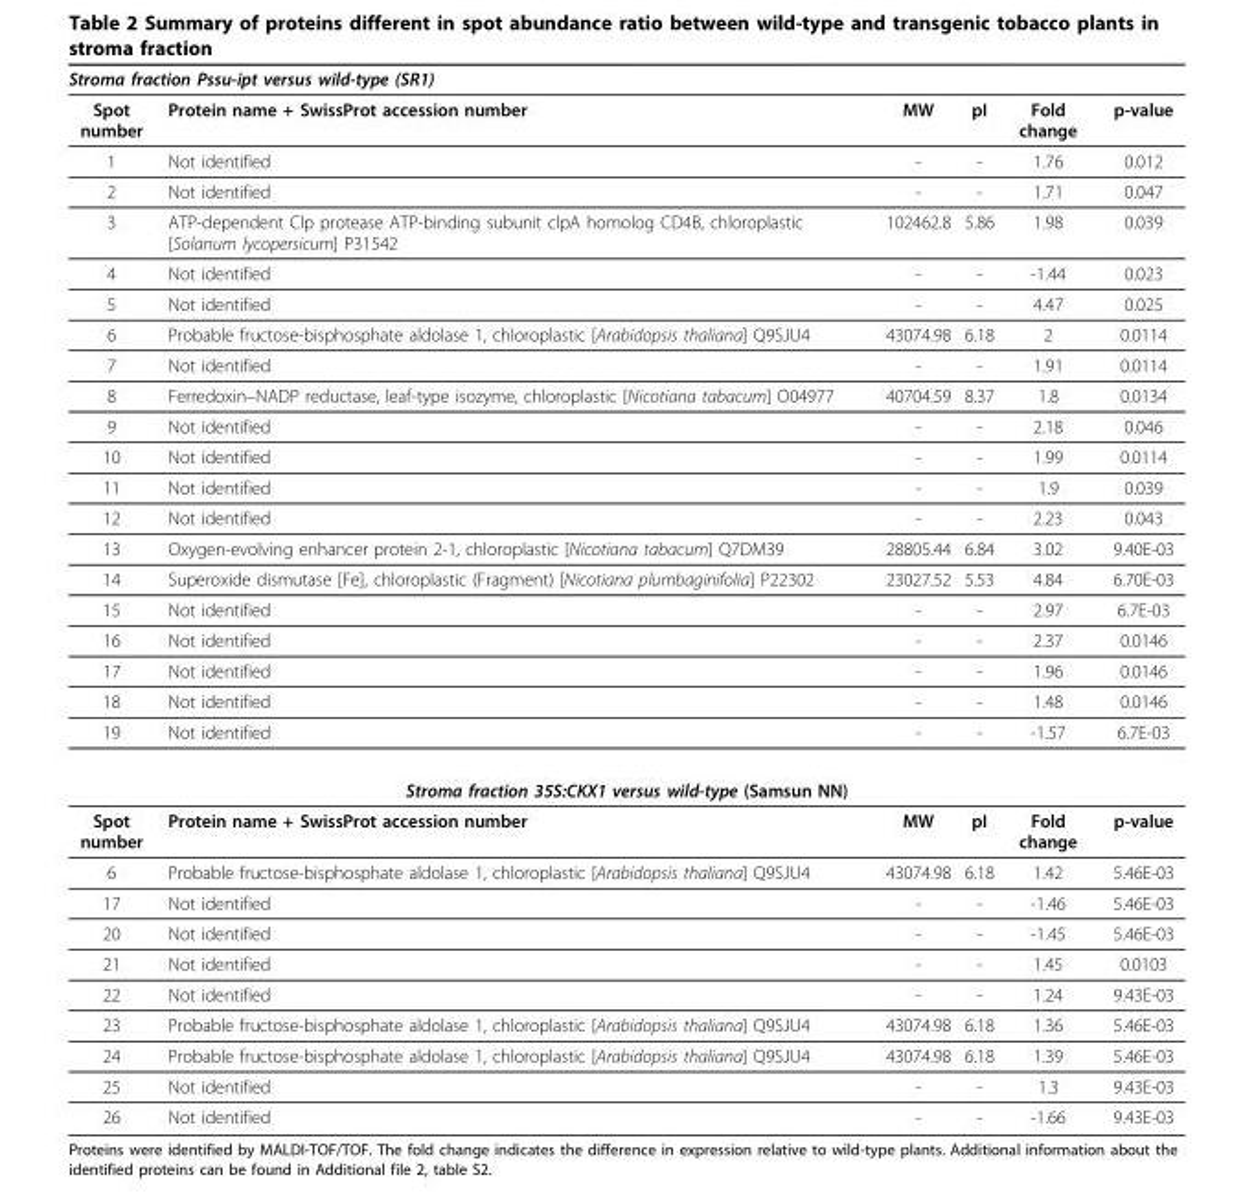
<table><thead><tr><td colspan="6">Stroma fraction Pssu-ipt versus wild-type (SR1)</td></tr><tr><td>Spot number</td><td>Protein name + SwissProt accession number</td><td>MW</td><td>pI</td><td>Fold change</td><td>p-value</td></tr></thead><tbody><tr><td>1</td><td>Not identified</td><td>-</td><td>-</td><td>1.76</td><td>0.012</td></tr><tr><td>2</td><td>Not identified</td><td>-</td><td>-</td><td>1.71</td><td>0.047</td></tr><tr><td>3</td><td>ATP-dependent Clp protease ATP-binding subunit clpA homolog CD4B, chloroplastic [Solanum lycopersicum] P31542</td><td>102462.8</td><td>5.86</td><td>1.98</td><td>0.039</td></tr><tr><td>4</td><td>Not identified</td><td>-</td><td>-</td><td>-1.44</td><td>0.023</td></tr><tr><td>5</td><td>Not identified</td><td>-</td><td>-</td><td>4.47</td><td>0.025</td></tr><tr><td>6</td><td>Probable fructose-bisphosphate aldolase 1, chloroplastic [Arabidopsis thaliana] Q9SJU4</td><td>43074.98</td><td>6.18</td><td>2</td><td>0.0114</td></tr><tr><td>7</td><td>Not identified</td><td>-</td><td>-</td><td>1.91</td><td>0.0114</td></tr><tr><td>8</td><td>Ferredoxin–NADP reductase, leaf-type isozyme, chloroplastic [Nicotiana tabacum] O04977</td><td>40704.59</td><td>8.37</td><td>1.8</td><td>0.0134</td></tr><tr><td>9</td><td>Not identified</td><td>-</td><td>-</td><td>2.18</td><td>0.046</td></tr><tr><td>10</td><td>Not identified</td><td>-</td><td>-</td><td>1.99</td><td>0.0114</td></tr><tr><td>11</td><td>Not identified</td><td>-</td><td>-</td><td>1.9</td><td>0.039</td></tr><tr><td>12</td><td>Not identified</td><td>-</td><td>-</td><td>2.23</td><td>0.043</td></tr><tr><td>13</td><td>Oxygen-evolving enhancer protein 2-1, chloroplastic [Nicotiana tabacum] Q7DM39</td><td>28805.44</td><td>6.84</td><td>3.02</td><td>9.40E-03</td></tr><tr><td>14</td><td>Superoxide dismutase [Fe], chloroplastic (Fragment) [Nicotiana plumbaginifolia] P22302</td><td>23027.52</td><td>5.53</td><td>4.84</td><td>6.70E-03</td></tr><tr><td>15</td><td>Not identified</td><td>-</td><td>-</td><td>2.97</td><td>6.7E-03</td></tr><tr><td>16</td><td>Not identified</td><td>-</td><td>-</td><td>2.37</td><td>0.0146</td></tr><tr><td>17</td><td>Not identified</td><td>-</td><td>-</td><td>1.96</td><td>0.0146</td></tr><tr><td>18</td><td>Not identified</td><td>-</td><td>-</td><td>1.48</td><td>0.0146</td></tr><tr><td>19</td><td>Not identified</td><td>-</td><td>-</td><td>-1.57</td><td>6.7E-03</td></tr><tr><td colspan="6">Stroma fraction 35S:CKX1 versus wild-type (Samsun NN)</td></tr><tr><td>Spot number</td><td>Protein name + SwissProt accession number</td><td>MW</td><td>pI</td><td>Fold change</td><td>p-value</td></tr><tr><td>6</td><td>Probable fructose-bisphosphate aldolase 1, chloroplastic [Arabidopsis thaliana] Q9SJU4</td><td>43074.98</td><td>6.18</td><td>1.42</td><td>5.46E-03</td></tr><tr><td>17</td><td>Not identified</td><td>-</td><td>-</td><td>-1.46</td><td>5.46E-03</td></tr><tr><td>20</td><td>Not identified</td><td>-</td><td>-</td><td>-1.45</td><td>5.46E-03</td></tr><tr><td>21</td><td>Not identified</td><td>-</td><td>-</td><td>1.45</td><td>0.0103</td></tr><tr><td>22</td><td>Not identified</td><td>-</td><td>-</td><td>1.24</td><td>9.43E-03</td></tr><tr><td>23</td><td>Probable fructose-bisphosphate aldolase 1, chloroplastic [Arabidopsis thaliana] Q9SJU4</td><td>43074.98</td><td>6.18</td><td>1.36</td><td>5.46E-03</td></tr><tr><td>24</td><td>Probable fructose-bisphosphate aldolase 1, chloroplastic [Arabidopsis thaliana] Q9SJU4</td><td>43074.98</td><td>6.18</td><td>1.39</td><td>5.46E-03</td></tr><tr><td>25</td><td>Not identified</td><td>-</td><td>-</td><td>1.3</td><td>9.43E-03</td></tr><tr><td>26</td><td>Not identified</td><td>-</td><td>-</td><td>-1.66</td><td>9.43E-03</td></tr></tbody></table>